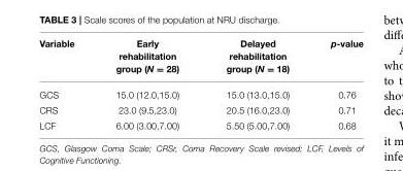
<table><thead><tr><td>Variable</td><td>Early rehabilitation group (N = 28)</td><td>Delayed rehabilitation group (N = 18)</td><td>p-value</td></tr></thead><tbody><tr><td>GCS</td><td>15.0 (12.0,15.0)</td><td>15.0 (13.0,15.0)</td><td>0.76</td></tr><tr><td>CRS</td><td>23.0 (9.5,23.0)</td><td>20.5 (16.0,23.0)</td><td>0.71</td></tr><tr><td>LCF</td><td>6.00 (3.00,7.00)</td><td>5.50 (5.00,7.00)</td><td>0.68</td></tr></tbody></table>